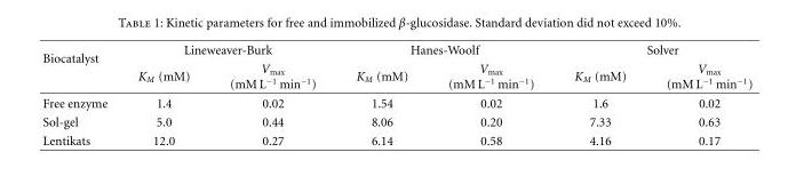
<table><thead><tr><td rowspan="2">Biocatalyst</td><td colspan="2">Lineweaver-Burk</td><td colspan="2">Hanes-Woolf</td><td colspan="2">Solver</td></tr><tr><td>K<sub>M</sub> (mM)</td><td>V<sub>max</sub> (mM L<sup>−1</sup> min<sup>−1</sup>)</td><td>K<sub>M</sub> (mM)</td><td>V<sub>max</sub> (mM L<sup>−1</sup> min<sup>−1</sup>)</td><td>K<sub>M</sub> (mM)</td><td>V<sub>max</sub> (mM L<sup>−1</sup> min<sup>−1</sup>)</td></tr></thead><tbody><tr><td>Free enzyme</td><td>1.4</td><td>0.02</td><td>1.54</td><td>0.02</td><td>1.6</td><td>0.02</td></tr><tr><td>Sol-gel</td><td>5.0</td><td>0.44</td><td>8.06</td><td>0.20</td><td>7.33</td><td>0.63</td></tr><tr><td>Lentikats</td><td>12.0</td><td>0.27</td><td>6.14</td><td>0.58</td><td>4.16</td><td>0.17</td></tr></tbody></table>